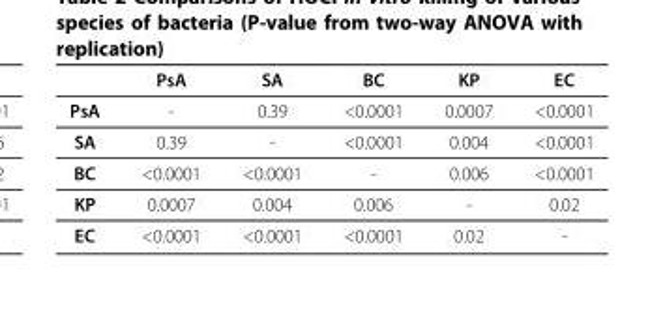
<table><thead><tr><td></td><td>PsA</td><td>SA</td><td>BC</td><td>KP</td><td>EC</td></tr></thead><tbody><tr><td>PsA</td><td>-</td><td>0.39</td><td>&lt;0.0001</td><td>0.0007</td><td>&lt;0.0001</td></tr><tr><td>SA</td><td>0.39</td><td>-</td><td>&lt;0.0001</td><td>0.004</td><td>&lt;0.0001</td></tr><tr><td>BC</td><td>&lt;0.0001</td><td>&lt;0.0001</td><td>-</td><td>0.006</td><td>&lt;0.0001</td></tr><tr><td>KP</td><td>0.0007</td><td>0.004</td><td>0.006</td><td>-</td><td>0.02</td></tr><tr><td>EC</td><td>&lt;0.0001</td><td>&lt;0.0001</td><td>&lt;0.0001</td><td>0.02</td><td>-</td></tr></tbody></table>